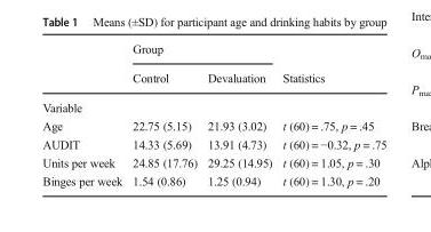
<table><thead><tr><td rowspan="2"></td><td colspan="2">Group</td><td rowspan="2">Statistics</td></tr><tr><td>Control</td><td>Devaluation</td></tr></thead><tbody><tr><td colspan="4">Variable</td></tr><tr><td>Age</td><td>22.75 (5.15)</td><td>21.93 (3.02)</td><td>t (60) = .75, p = .45</td></tr><tr><td>AUDIT</td><td>14.33 (5.69)</td><td>13.91 (4.73)</td><td>t (60) = −0.32, p = .75</td></tr><tr><td>Units per week</td><td>24.85 (17.76)</td><td>29.25 (14.95)</td><td>t (60) = 1.05, p = .30</td></tr><tr><td>Binges per week</td><td>1.54 (0.86)</td><td>1.25 (0.94)</td><td>t (60) = 1.30, p = .20</td></tr></tbody></table>